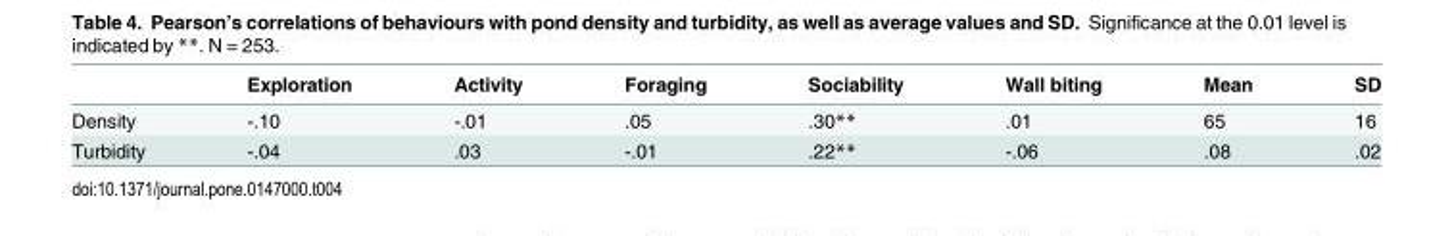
<table><thead><tr><td></td><td>Exploration</td><td>Activity</td><td>Foraging</td><td>Sociability</td><td>Wall biting</td><td>Mean</td><td>SD</td></tr></thead><tbody><tr><td>Density</td><td>-.10</td><td>-.01</td><td>.05</td><td>.30**</td><td>.01</td><td>65</td><td>16</td></tr><tr><td>Turbidity</td><td>-.04</td><td>.03</td><td>-.01</td><td>.22**</td><td>-.06</td><td>.08</td><td>.02</td></tr></tbody></table>